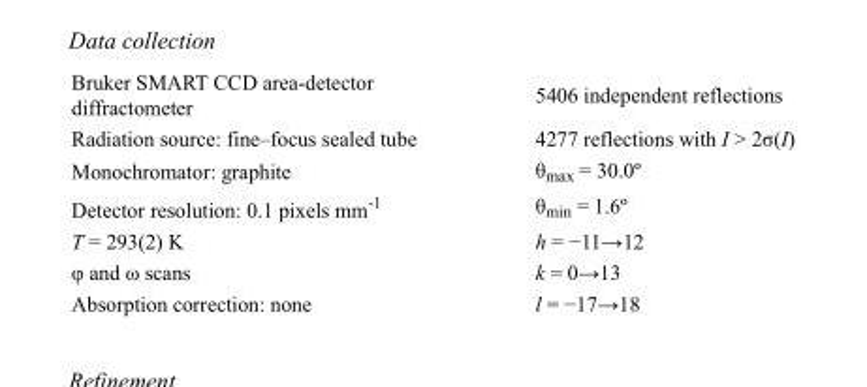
<table><tbody><tr><td>Bruker SMART CCD area-detector diffractometer</td><td>5406 independent reflections</td></tr><tr><td>Radiation source: fine–focus sealed tube</td><td>4277 reflections with I &gt; 2σ(I)</td></tr><tr><td>Monochromator: graphite</td><td>θ<sub>max</sub> = 30.0º</td></tr><tr><td>Detector resolution: 0.1 pixels mm<sup>-1</sup></td><td>θ<sub>min</sub> = 1.6º</td></tr><tr><td>T = 293(2) K</td><td>h = −11→12</td></tr><tr><td>φ and ω scans</td><td>k = 0→13</td></tr><tr><td>Absorption correction: none</td><td>l = −17→18</td></tr></tbody></table>